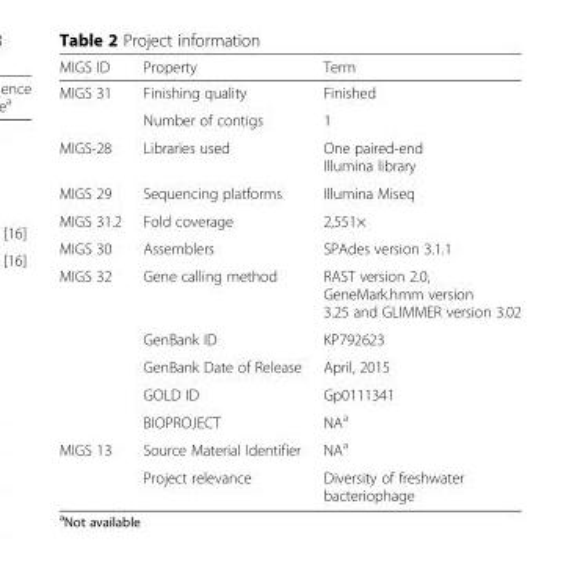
<table><thead><tr><td>MIGS ID</td><td>Property</td><td>Term</td></tr></thead><tbody><tr><td rowspan="2">MIGS 31</td><td>Finishing quality</td><td>Finished</td></tr><tr><td>Number of contigs</td><td>1</td></tr><tr><td>MIGS-28</td><td>Libraries used</td><td>One paired-end Illumina library</td></tr><tr><td>MIGS 29</td><td>Sequencing platforms</td><td>Illumina Miseq</td></tr><tr><td>MIGS 31.2</td><td>Fold coverage</td><td>2,551×</td></tr><tr><td>MIGS 30</td><td>Assemblers</td><td>SPAdes version 3.1.1</td></tr><tr><td rowspan="5">MIGS 32</td><td>Gene calling method</td><td>RAST version 2.0, GeneMark.hmm version 3.25 and GLIMMER version 3.02</td></tr><tr><td>GenBank ID</td><td>KP792623</td></tr><tr><td>GenBank Date of Release</td><td>April, 2015</td></tr><tr><td>GOLD ID</td><td>Gp0111341</td></tr><tr><td>BIOPROJECT</td><td>NA<sup>a</sup></td></tr><tr><td rowspan="2">MIGS 13</td><td>Source Material Identifier</td><td>NA<sup>a</sup></td></tr><tr><td>Project relevance</td><td>Diversity of freshwater bacteriophage</td></tr></tbody></table>